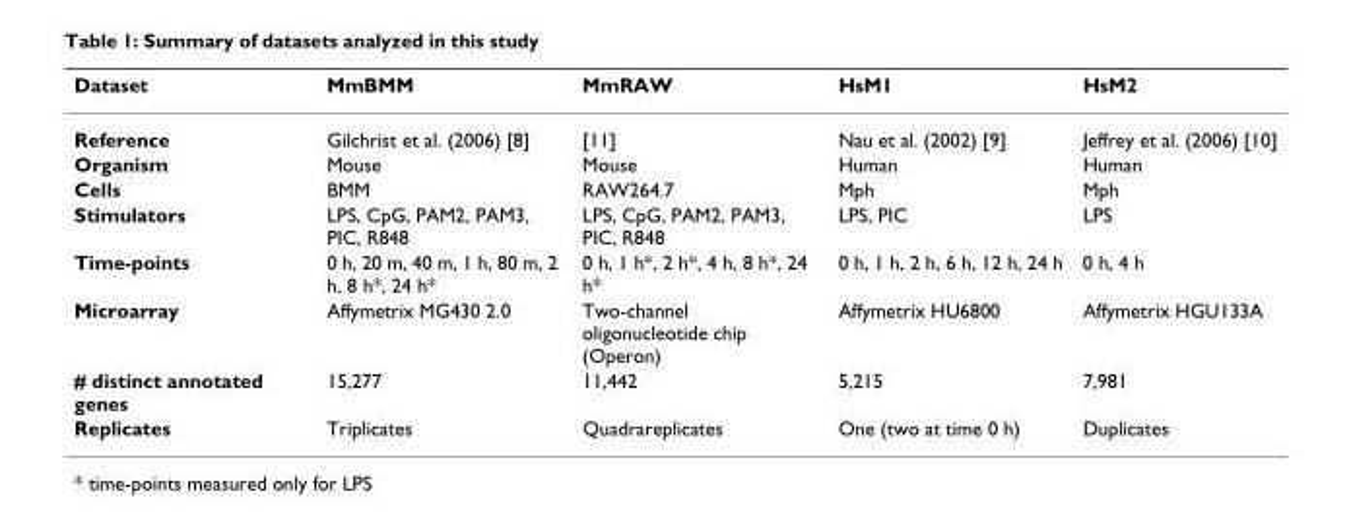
<table><thead><tr><td>Dataset</td><td>MmBMM</td><td>MmRAW</td><td>HsM1</td><td>HsM2</td></tr></thead><tbody><tr><td>Reference</td><td>Gilchrist et al. (2006) [8]</td><td>[11]</td><td>Nau et al. (2002) [9]</td><td>Jeffrey et al. (2006) [10]</td></tr><tr><td>Organism</td><td>Mouse</td><td>Mouse</td><td>Human</td><td>Human</td></tr><tr><td>Cells</td><td>BMM</td><td>RAW264.7</td><td>Mph</td><td>Mph</td></tr><tr><td>Stimulators</td><td>LPS, CpG, PAM2, PAM3, PIC, R848</td><td>LPS, CpG, PAM2, PAM3, PIC, R848</td><td>LPS, PIC</td><td>LPS</td></tr><tr><td>Time-points</td><td>0 h, 20 m, 40 m, 1 h, 80 m, 2 h, 8 h*, 24 h*</td><td>0 h, 1 h*, 2 h*, 4 h, 8 h*, 24 h*</td><td>0 h, 1 h, 2 h, 6 h, 12 h, 24 h</td><td>0 h, 4 h</td></tr><tr><td>Microarray</td><td>Affymetrix MG430 2.0</td><td>Two-channel oligonucleotide chip (Operon)</td><td>Affymetrix HU6800</td><td>Affymetrix HGU133A</td></tr><tr><td># distinct annotated genes</td><td>15,277</td><td>11,442</td><td>5,215</td><td>7,981</td></tr><tr><td>Replicates</td><td>Triplicates</td><td>Quadrareplicates</td><td>One (two at time 0 h)</td><td>Duplicates</td></tr></tbody></table>